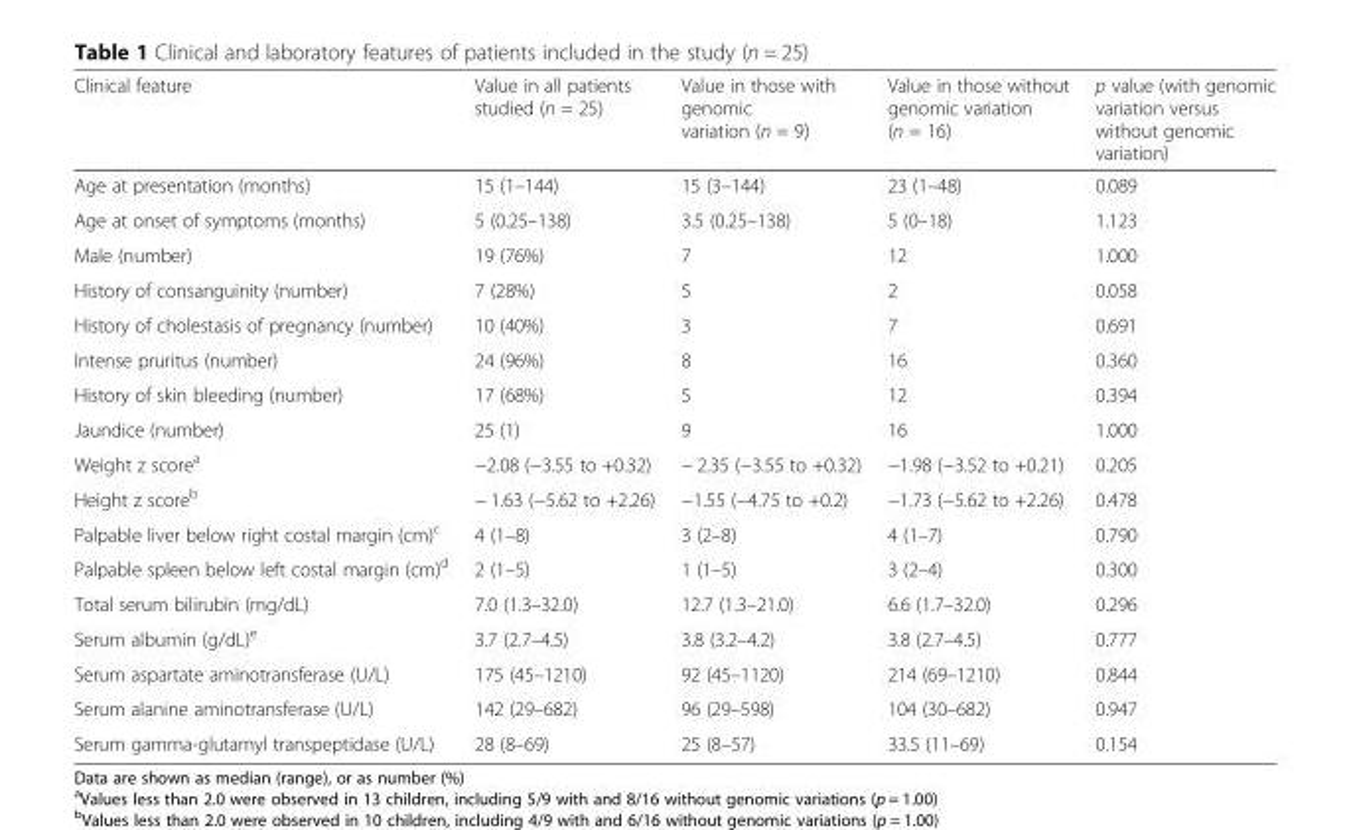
<table><thead><tr><td>Clinical feature</td><td>Value in all patients studied (n = 25)</td><td>Value in those with genomic variation (n = 9)</td><td>Value in those without genomic variation (n = 16)</td><td>p value (with genomic variation versus without genomic variation)</td></tr></thead><tbody><tr><td>Age at presentation (months)</td><td>15 (1–144)</td><td>15 (3–144)</td><td>23 (1–48)</td><td>0.089</td></tr><tr><td>Age at onset of symptoms (months)</td><td>5 (0.25–138)</td><td>3.5 (0.25–138)</td><td>5 (0–18)</td><td>1.123</td></tr><tr><td>Male (number)</td><td>19 (76%)</td><td>7</td><td>12</td><td>1.000</td></tr><tr><td>History of consanguinity (number)</td><td>7 (28%)</td><td>5</td><td>2</td><td>0.058</td></tr><tr><td>History of cholestasis of pregnancy (number)</td><td>10 (40%)</td><td>3</td><td>7</td><td>0.691</td></tr><tr><td>Intense pruritus (number)</td><td>24 (96%)</td><td>8</td><td>16</td><td>0.360</td></tr><tr><td>History of skin bleeding (number)</td><td>17 (68%)</td><td>5</td><td>12</td><td>0.394</td></tr><tr><td>Jaundice (number)</td><td>25 (1)</td><td>9</td><td>16</td><td>1.000</td></tr><tr><td>Weight z score<sup>a</sup></td><td>−2.08 (−3.55 to +0.32)</td><td>− 2.35 (−3.55 to +0.32)</td><td>−1.98 (−3.52 to +0.21)</td><td>0.205</td></tr><tr><td>Height z score<sup>b</sup></td><td>− 1.63 (−5.62 to +2.26)</td><td>−1.55 (−4.75 to +0.2)</td><td>−1.73 (−5.62 to +2.26)</td><td>0.478</td></tr><tr><td>Palpable liver below right costal margin (cm)<sup>c</sup></td><td>4 (1–8)</td><td>3 (2–8)</td><td>4 (1–7)</td><td>0.790</td></tr><tr><td>Palpable spleen below left costal margin (cm)<sup>d</sup></td><td>2 (1–5)</td><td>1 (1–5)</td><td>3 (2–4)</td><td>0.300</td></tr><tr><td>Total serum bilirubin (mg/dL)</td><td>7.0 (1.3–32.0)</td><td>12.7 (1.3–21.0)</td><td>6.6 (1.7–32.0)</td><td>0.296</td></tr><tr><td>Serum albumin (g/dL)<sup>e</sup></td><td>3.7 (2.7–4.5)</td><td>3.8 (3.2–4.2)</td><td>3.8 (2.7–4.5)</td><td>0.777</td></tr><tr><td>Serum aspartate aminotransferase (U/L)</td><td>175 (45–1210)</td><td>92 (45–1120)</td><td>214 (69–1210)</td><td>0.844</td></tr><tr><td>Serum alanine aminotransferase (U/L)</td><td>142 (29–682)</td><td>96 (29–598)</td><td>104 (30–682)</td><td>0.947</td></tr><tr><td>Serum gamma-glutamyl transpeptidase (U/L)</td><td>28 (8–69)</td><td>25 (8–57)</td><td>33.5 (11–69)</td><td>0.154</td></tr></tbody></table>